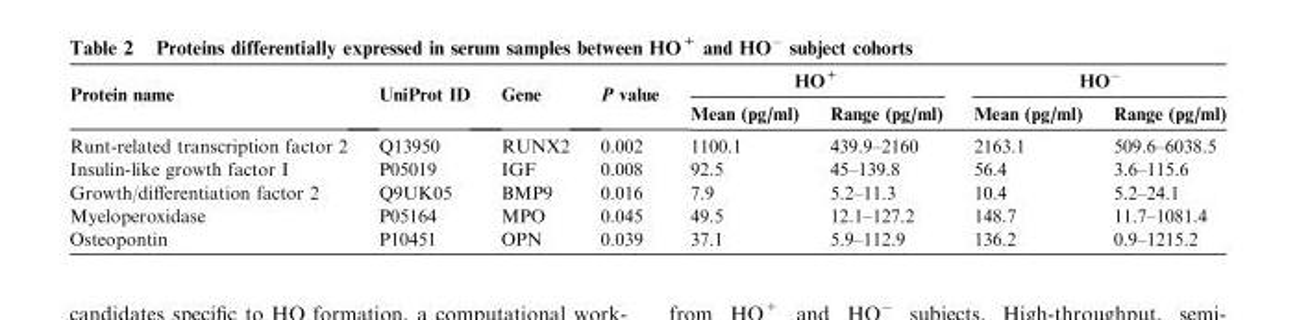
<table><thead><tr><td rowspan="2">Protein name</td><td rowspan="2">UniProt ID</td><td rowspan="2">Gene</td><td rowspan="2">P value</td><td colspan="2">HO<sup>+</sup></td><td colspan="2">HO<sup>−</sup></td></tr><tr><td>Mean (pg/ml)</td><td>Range (pg/ml)</td><td>Mean (pg/ml)</td><td>Range (pg/ml)</td></tr></thead><tbody><tr><td>Runt-related transcription factor 2</td><td>Q13950</td><td>RUNX2</td><td>0.002</td><td>1100.1</td><td>439.9–2160</td><td>2163.1</td><td>509.6–6038.5</td></tr><tr><td>Insulin-like growth factor I</td><td>P05019</td><td>IGF</td><td>0.008</td><td>92.5</td><td>45–139.8</td><td>56.4</td><td>3.6–115.6</td></tr><tr><td>Growth/differentiation factor 2</td><td>Q9UK05</td><td>BMP9</td><td>0.016</td><td>7.9</td><td>5.2–11.3</td><td>10.4</td><td>5.2–24.1</td></tr><tr><td>Myeloperoxidase</td><td>P05164</td><td>MPO</td><td>0.045</td><td>49.5</td><td>12.1–127.2</td><td>148.7</td><td>11.7–1081.4</td></tr><tr><td>Osteopontin</td><td>P10451</td><td>OPN</td><td>0.039</td><td>37.1</td><td>5.9–112.9</td><td>136.2</td><td>0.9–1215.2</td></tr></tbody></table>